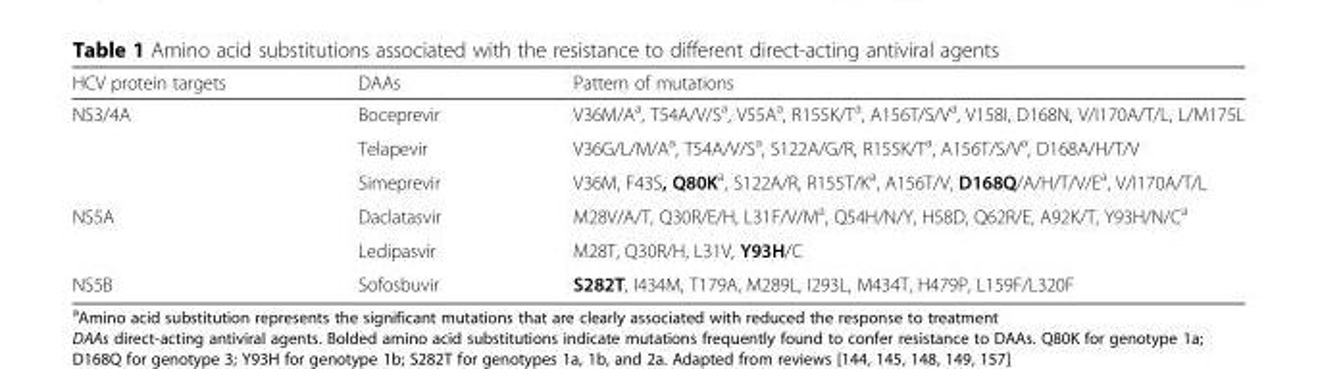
<table><thead><tr><td>HCV protein targets</td><td>DAAs</td><td>Pattern of mutations</td></tr></thead><tbody><tr><td rowspan="3">NS3/4A</td><td>Boceprevir</td><td>V36M/A<sup>a</sup>, T54A/V/S<sup>a</sup>, V55A<sup>a</sup>, R155K/T<sup>a</sup>, A156T/S/V<sup>a</sup>, V158I, D168N, V/I170A/T/L, L/M175L</td></tr><tr><td>Telapevir</td><td>V36G/L/M/A<sup>a</sup>, T54A/V/S<sup>a</sup>, S122A/G/R, R155K/T<sup>a</sup>, A156T/S/V<sup>a</sup>, D168A/H/T/V</td></tr><tr><td>Simeprevir</td><td>V36M, F43S, Q80K<sup>a</sup>, S122A/R, R155T/K<sup>a</sup>, A156T/V, D168Q/A/H/T/V/E<sup>a</sup>, V/I170A/T/L</td></tr><tr><td rowspan="2">NS5A</td><td>Daclatasvir</td><td>M28V/A/T, Q30R/E/H, L31F/V/M<sup>a</sup>, Q54H/N/Y, H58D, Q62R/E, A92K/T, Y93H/N/C<sup>a</sup></td></tr><tr><td>Ledipasvir</td><td>M28T, Q30R/H, L31V, Y93H/C</td></tr><tr><td>NS5B</td><td>Sofosbuvir</td><td>S282T, I434M, T179A, M289L, I293L, M434T, H479P, L159F/L320F</td></tr></tbody></table>